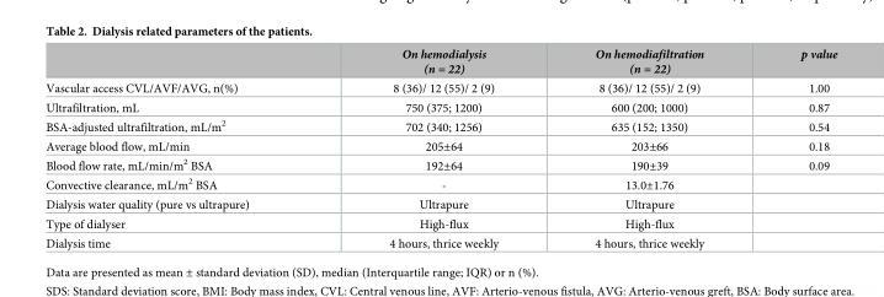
<table><thead><tr><td></td><td>On hemodialysis (n = 22)</td><td>On hemodiafiltration (n = 22)</td><td>p value</td></tr></thead><tbody><tr><td>Vascular access CVL/AVF/AVG, n(%)</td><td>8 (36)/ 12 (55)/ 2 (9)</td><td>8 (36)/ 12 (55)/ 2 (9)</td><td>1.00</td></tr><tr><td>Ultrafiltration, mL</td><td>750 (375; 1200)</td><td>600 (200; 1000)</td><td>0.87</td></tr><tr><td>BSA-adjusted ultrafiltration, mL/m<sup>2</sup></td><td>702 (340; 1256)</td><td>635 (152; 1350)</td><td>0.54</td></tr><tr><td>Average blood flow, mL/min</td><td>205±64</td><td>203±66</td><td>0.18</td></tr><tr><td>Blood flow rate, mL/min/m<sup>2</sup> BSA</td><td>192±64</td><td>190±39</td><td>0.09</td></tr><tr><td>Convective clearance, mL/m<sup>2</sup> BSA</td><td>-</td><td>13.0±1.76</td><td></td></tr><tr><td>Dialysis water quality (pure vs ultrapure)</td><td>Ultrapure</td><td>Ultrapure</td><td></td></tr><tr><td>Type of dialyser</td><td>High-flux</td><td>High-flux</td><td></td></tr><tr><td>Dialysis time</td><td>4 hours, thrice weekly</td><td>4 hours, thrice weekly</td><td></td></tr></tbody></table>